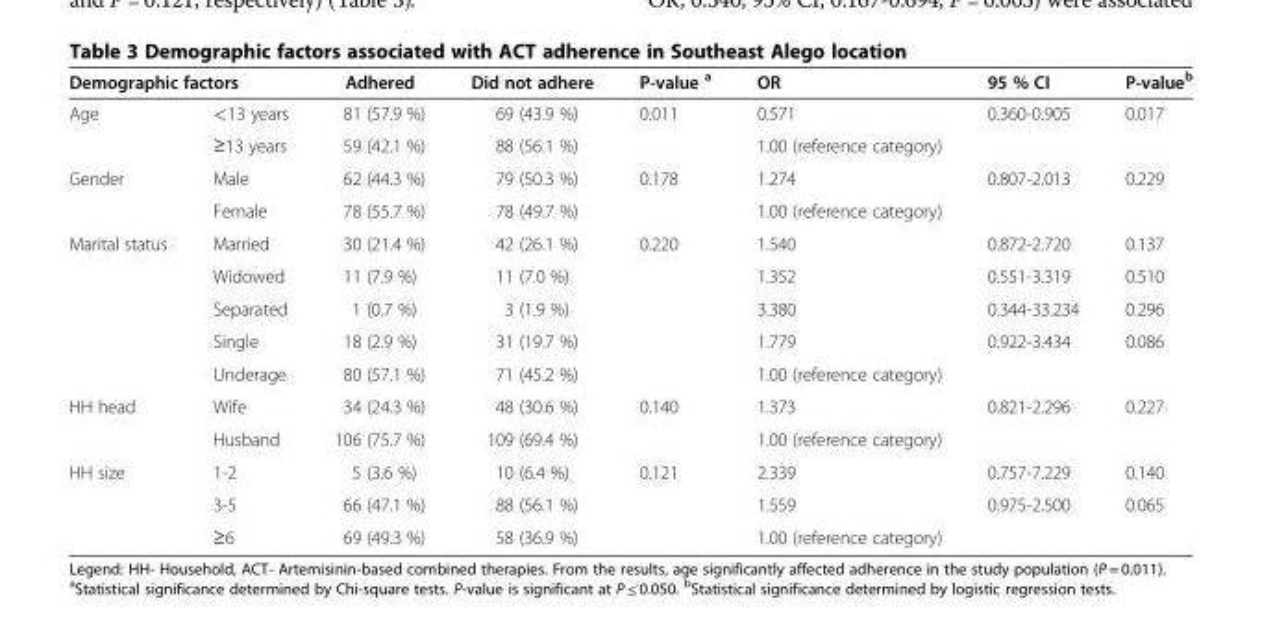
<table><thead><tr><td colspan="2">Demographic factors</td><td rowspan="2">Adhered 81 (57.9 %)</td><td rowspan="2">Did not adhere 69 (43.9 %)</td><td rowspan="2">P-value <sup>a</sup> 0.011</td><td rowspan="2">OR 0.571</td><td rowspan="2">95 % CI 0.360-0.905</td><td rowspan="2">P-value<sup>b</sup> 0.017</td></tr><tr><td>Age</td><td>&lt;13 years</td></tr></thead><tbody><tr><td></td><td>≥13 years</td><td>59 (42.1 %)</td><td>88 (56.1 %)</td><td></td><td>1.00 (reference category)</td><td></td><td></td></tr><tr><td rowspan="2">Gender</td><td>Male</td><td>62 (44.3 %)</td><td>79 (50.3 %)</td><td>0.178</td><td>1.274</td><td>0.807-2.013</td><td>0.229</td></tr><tr><td>Female</td><td>78 (55.7 %)</td><td>78 (49.7 %)</td><td></td><td>1.00 (reference category)</td><td></td><td></td></tr><tr><td rowspan="5">Marital status</td><td>Married</td><td>30 (21.4 %)</td><td>42 (26.1 %)</td><td>0.220</td><td>1.540</td><td>0.872-2.720</td><td>0.137</td></tr><tr><td>Widowed</td><td>11 (7.9 %)</td><td>11 (7.0 %)</td><td></td><td>1.352</td><td>0.551-3.319</td><td>0.510</td></tr><tr><td>Separated</td><td>1 (0.7 %)</td><td>3 (1.9 %)</td><td></td><td>3.380</td><td>0.344-33.234</td><td>0.296</td></tr><tr><td>Single</td><td>18 (2.9 %)</td><td>31 (19.7 %)</td><td></td><td>1.779</td><td>0.922-3.434</td><td>0.086</td></tr><tr><td>Underage</td><td>80 (57.1 %)</td><td>71 (45.2 %)</td><td></td><td>1.00 (reference category)</td><td></td><td></td></tr><tr><td rowspan="2">HH head</td><td>Wife</td><td>34 (24.3 %)</td><td>48 (30.6 %)</td><td>0.140</td><td>1.373</td><td>0.821-2.296</td><td>0.227</td></tr><tr><td>Husband</td><td>106 (75.7 %)</td><td>109 (69.4 %)</td><td></td><td>1.00 (reference category)</td><td></td><td></td></tr><tr><td rowspan="3">HH size</td><td>1-2</td><td>5 (3.6 %)</td><td>10 (6.4 %)</td><td>0.121</td><td>2.339</td><td>0.757-7.229</td><td>0.140</td></tr><tr><td>3-5</td><td>66 (47.1 %)</td><td>88 (56.1 %)</td><td></td><td>1.559</td><td>0.975-2.500</td><td>0.065</td></tr><tr><td>≥6</td><td>69 (49.3 %)</td><td>58 (36.9 %)</td><td></td><td>1.00 (reference category)</td><td></td><td></td></tr></tbody></table>